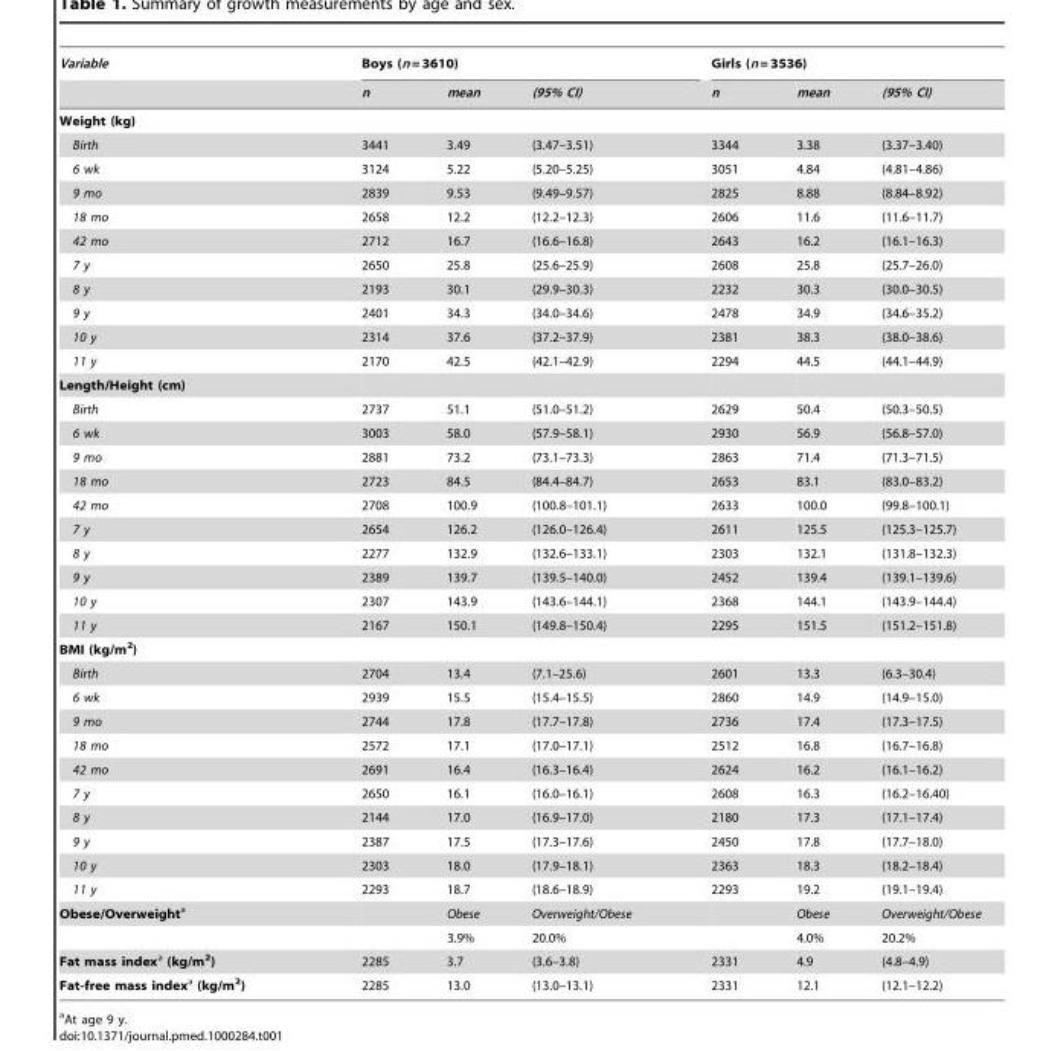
<table><thead><tr><td rowspan="2">Variable</td><td colspan="3">Boys (n = 3610)</td><td colspan="3">Girls (n = 3536)</td></tr><tr><td>n</td><td>mean</td><td>(95% CI)</td><td>n</td><td>mean</td><td>(95% CI)</td></tr></thead><tbody><tr><td colspan="7">Weight (kg)</td></tr><tr><td>Birth</td><td>3441</td><td>3.49</td><td>(3.47–3.51)</td><td>3344</td><td>3.38</td><td>(3.37–3.40)</td></tr><tr><td>6 wk</td><td>3124</td><td>5.22</td><td>(5.20–5.25)</td><td>3051</td><td>4.84</td><td>(4.81–4.86)</td></tr><tr><td>9 mo</td><td>2839</td><td>9.53</td><td>(9.49–9.57)</td><td>2825</td><td>8.88</td><td>(8.84–8.92)</td></tr><tr><td>18 mo</td><td>2658</td><td>12.2</td><td>(12.2–12.3)</td><td>2606</td><td>11.6</td><td>(11.6–11.7)</td></tr><tr><td>42 mo</td><td>2712</td><td>16.7</td><td>(16.6–16.8)</td><td>2643</td><td>16.2</td><td>(16.1–16.3)</td></tr><tr><td>7 y</td><td>2650</td><td>25.8</td><td>(25.6–25.9)</td><td>2608</td><td>25.8</td><td>(25.7–26.0)</td></tr><tr><td>8 y</td><td>2193</td><td>30.1</td><td>(29.9–30.3)</td><td>2232</td><td>30.3</td><td>(30.0–30.5)</td></tr><tr><td>9 y</td><td>2401</td><td>34.3</td><td>(34.0–34.6)</td><td>2478</td><td>34.9</td><td>(34.6–35.2)</td></tr><tr><td>10 y</td><td>2314</td><td>37.6</td><td>(37.2–37.9)</td><td>2381</td><td>38.3</td><td>(38.0–38.6)</td></tr><tr><td>11 y</td><td>2170</td><td>42.5</td><td>(42.1–42.9)</td><td>2294</td><td>44.5</td><td>(44.1–44.9)</td></tr><tr><td colspan="7">Length/Height (cm)</td></tr><tr><td>Birth</td><td>2737</td><td>51.1</td><td>(51.0–51.2)</td><td>2629</td><td>50.4</td><td>(50.3–50.5)</td></tr><tr><td>6 wk</td><td>3003</td><td>58.0</td><td>(57.9–58.1)</td><td>2930</td><td>56.9</td><td>(56.8–57.0)</td></tr><tr><td>9 mo</td><td>2881</td><td>73.2</td><td>(73.1–73.3)</td><td>2863</td><td>71.4</td><td>(71.3–71.5)</td></tr><tr><td>18 mo</td><td>2723</td><td>84.5</td><td>(84.4–84.7)</td><td>2653</td><td>83.1</td><td>(83.0–83.2)</td></tr><tr><td>42 mo</td><td>2708</td><td>100.9</td><td>(100.8–101.1)</td><td>2633</td><td>100.0</td><td>(99.8–100.1)</td></tr><tr><td>7 y</td><td>2654</td><td>126.2</td><td>(126.0–126.4)</td><td>2611</td><td>125.5</td><td>(125.3–125.7)</td></tr><tr><td>8 y</td><td>2277</td><td>132.9</td><td>(132.6–133.1)</td><td>2303</td><td>132.1</td><td>(131.8–132.3)</td></tr><tr><td>9 y</td><td>2389</td><td>139.7</td><td>(139.5–140.0)</td><td>2452</td><td>139.4</td><td>(139.1–139.6)</td></tr><tr><td>10 y</td><td>2307</td><td>143.9</td><td>(143.6–144.1)</td><td>2368</td><td>144.1</td><td>(143.9–144.4)</td></tr><tr><td>11 y</td><td>2167</td><td>150.1</td><td>(149.8–150.4)</td><td>2295</td><td>151.5</td><td>(151.2–151.8)</td></tr><tr><td colspan="7">BMI (kg/m<sup>2</sup>)</td></tr><tr><td>Birth</td><td>2704</td><td>13.4</td><td>(7.1–25.6)</td><td>2601</td><td>13.3</td><td>(6.3–30.4)</td></tr><tr><td>6 wk</td><td>2939</td><td>15.5</td><td>(15.4–15.5)</td><td>2860</td><td>14.9</td><td>(14.9–15.0)</td></tr><tr><td>9 mo</td><td>2744</td><td>17.8</td><td>(17.7–17.8)</td><td>2736</td><td>17.4</td><td>(17.3–17.5)</td></tr><tr><td>18 mo</td><td>2572</td><td>17.1</td><td>(17.0–17.1)</td><td>2512</td><td>16.8</td><td>(16.7–16.8)</td></tr><tr><td>42 mo</td><td>2691</td><td>16.4</td><td>(16.3–16.4)</td><td>2624</td><td>16.2</td><td>(16.1–16.2)</td></tr><tr><td>7 y</td><td>2650</td><td>16.1</td><td>(16.0–16.1)</td><td>2608</td><td>16.3</td><td>(16.2–16.40)</td></tr><tr><td>8 y</td><td>2144</td><td>17.0</td><td>(16.9–17.0)</td><td>2180</td><td>17.3</td><td>(17.1–17.4)</td></tr><tr><td>9 y</td><td>2387</td><td>17.5</td><td>(17.3–17.6)</td><td>2450</td><td>17.8</td><td>(17.7–18.0)</td></tr><tr><td>10 y</td><td>2303</td><td>18.0</td><td>(17.9–18.1)</td><td>2363</td><td>18.3</td><td>(18.2–18.4)</td></tr><tr><td>11 y</td><td>2293</td><td>18.7</td><td>(18.6–18.9)</td><td>2293</td><td>19.2</td><td>(19.1–19.4)</td></tr><tr><td rowspan="2">Obese/Overweighta</td><td></td><td>Obese</td><td>Overweight/Obese</td><td></td><td>Obese</td><td>Overweight/Obese</td></tr><tr><td></td><td>3.9%</td><td>20.0%</td><td></td><td>4.0%</td><td>20.2%</td></tr><tr><td>Fat mass indexa (kg/m<sup>2</sup>)</td><td>2285</td><td>3.7</td><td>(3.6–3.8)</td><td>2331</td><td>4.9</td><td>(4.8–4.9)</td></tr><tr><td>Fat-free mass indexa (kg/m<sup>2</sup>)</td><td>2285</td><td>13.0</td><td>(13.0–13.1)</td><td>2331</td><td>12.1</td><td>(12.1–12.2)</td></tr></tbody></table>